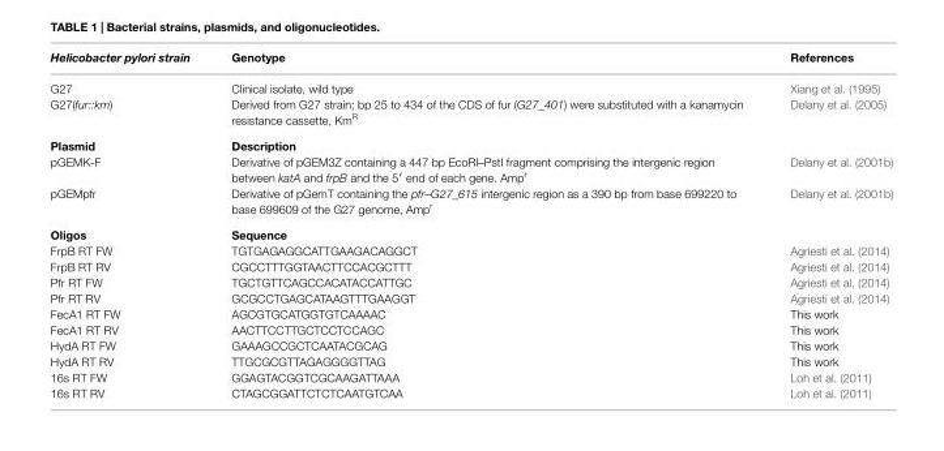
<table><thead><tr><td>Helicobacter pylori strain</td><td>Genotype</td><td>References</td></tr></thead><tbody><tr><td>G27</td><td>Clinical isolate, wild type</td><td>Xiang et al. (1995)</td></tr><tr><td>G27(fur::km)</td><td>Derived from G27 strain; bp 25 to 434 of the CDS of fur (G27_401) were substituted with a kanamycin resistance cassette, Km<sup>R</sup></td><td>Delany et al. (2005)</td></tr><tr><td>Plasmid</td><td>Description</td><td></td></tr><tr><td>pGEMK-F</td><td>Derivative of pGEM3Z containing a 447 bp EcoRI–PstI fragment comprising the intergenic region between katA and frpB and the 5′ end of each gene. Amp<sup>r</sup></td><td>Delany et al. (2001b)</td></tr><tr><td>pGEMpfr</td><td>Derivative of pGemT containing the pfr–G27_615 intergenic region as a 390 bp from base 699220 to base 699609 of the G27 genome, Amp<sup>r</sup></td><td>Delany et al. (2001b)</td></tr><tr><td>Oligos</td><td>Sequence</td><td></td></tr><tr><td>FrpB RT FW</td><td>TGTGAGAGGCATTGAAGACAGGCT</td><td>Agriesti et al. (2014)</td></tr><tr><td>FrpB RT RV</td><td>CGCCTTTGGTAACTTCCACGCTTT</td><td>Agriesti et al. (2014)</td></tr><tr><td>Pfr RT FW</td><td>TGCTGTTCAGCCACATACCATTGC</td><td>Agriesti et al. (2014)</td></tr><tr><td>Pfr RT RV</td><td>GCGCCTGAGCATAAGTTTGAAGGT</td><td>Agriesti et al. (2014)</td></tr><tr><td>FecA1 RT FW</td><td>AGCGTGCATGGTGTCAAAAC</td><td>This work</td></tr><tr><td>FecA1 RT RV</td><td>AACTTCCTTGCTCCTCCAGC</td><td>This work</td></tr><tr><td>HydA RT FW</td><td>GAAAGCCGCTCAATACGCAG</td><td>This work</td></tr><tr><td>HydA RT RV</td><td>TTGCGCGTTAGAGGGGTTAG</td><td>This work</td></tr><tr><td>16s RT FW</td><td>GGAGTACGGTCGCAAGATTAAA</td><td>Loh et al. (2011)</td></tr><tr><td>16s RT RV</td><td>CTAGCGGATTCTCTCAATGTCAA</td><td>Loh et al. (2011)</td></tr></tbody></table>